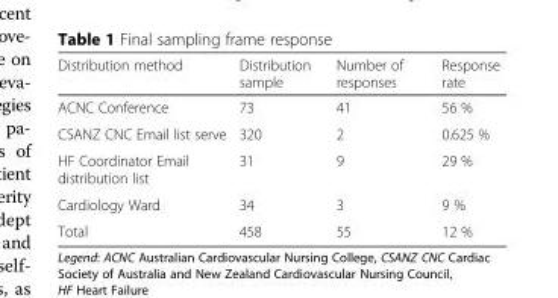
<table><thead><tr><td>Distribution method</td><td>Distribution sample</td><td>Number of responses</td><td>Response rate</td></tr></thead><tbody><tr><td>ACNC Conference</td><td>73</td><td>41</td><td>56 %</td></tr><tr><td>CSANZ CNC Email list serve</td><td>320</td><td>2</td><td>0.625 %</td></tr><tr><td>HF Coordinator Email distribution list</td><td>31</td><td>9</td><td>29 %</td></tr><tr><td>Cardiology Ward</td><td>34</td><td>3</td><td>9 %</td></tr><tr><td>Total</td><td>458</td><td>55</td><td>12 %</td></tr></tbody></table>